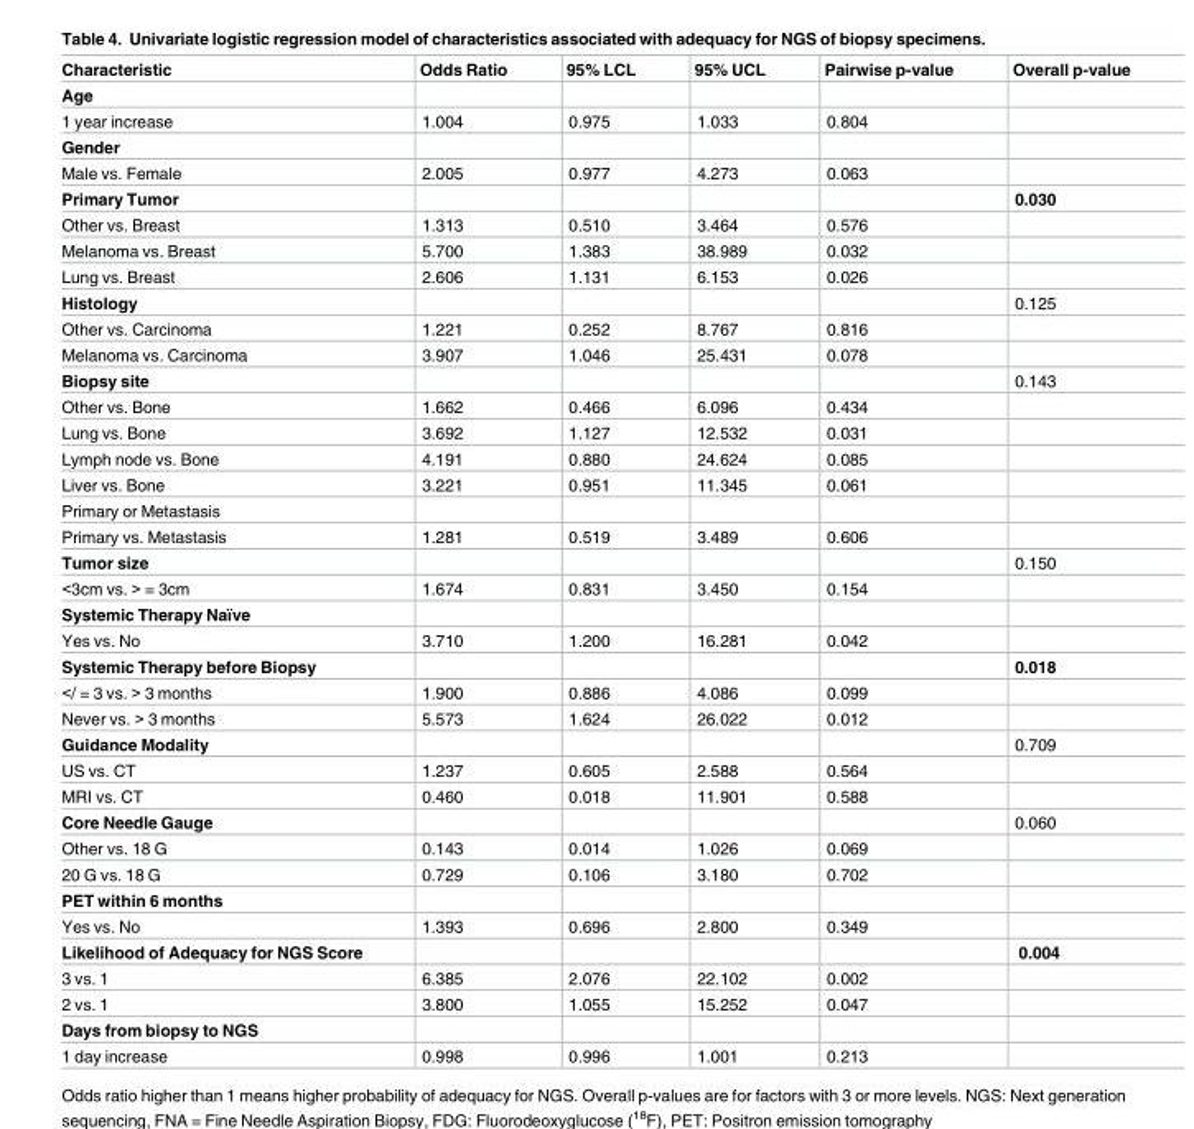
<table><thead><tr><td>Characteristic</td><td>Odds Ratio</td><td>95% LCL</td><td>95% UCL</td><td>Pairwise p-value</td><td>Overall p-value</td></tr></thead><tbody><tr><td colspan="6">Age</td></tr><tr><td>1 year increase</td><td>1.004</td><td>0.975</td><td>1.033</td><td>0.804</td><td></td></tr><tr><td colspan="6">Gender</td></tr><tr><td>Male vs. Female</td><td>2.005</td><td>0.977</td><td>4.273</td><td>0.063</td><td></td></tr><tr><td>Primary Tumor</td><td></td><td></td><td></td><td></td><td>0.030</td></tr><tr><td>Other vs. Breast</td><td>1.313</td><td>0.510</td><td>3.464</td><td>0.576</td><td></td></tr><tr><td>Melanoma vs. Breast</td><td>5.700</td><td>1.383</td><td>38.989</td><td>0.032</td><td></td></tr><tr><td>Lung vs. Breast</td><td>2.606</td><td>1.131</td><td>6.153</td><td>0.026</td><td></td></tr><tr><td>Histology</td><td></td><td></td><td></td><td></td><td>0.125</td></tr><tr><td>Other vs. Carcinoma</td><td>1.221</td><td>0.252</td><td>8.767</td><td>0.816</td><td></td></tr><tr><td>Melanoma vs. Carcinoma</td><td>3.907</td><td>1.046</td><td>25.431</td><td>0.078</td><td></td></tr><tr><td>Biopsy site</td><td></td><td></td><td></td><td></td><td>0.143</td></tr><tr><td>Other vs. Bone</td><td>1.662</td><td>0.466</td><td>6.096</td><td>0.434</td><td></td></tr><tr><td>Lung vs. Bone</td><td>3.692</td><td>1.127</td><td>12.532</td><td>0.031</td><td></td></tr><tr><td>Lymph node vs. Bone</td><td>4.191</td><td>0.880</td><td>24.624</td><td>0.085</td><td></td></tr><tr><td>Liver vs. Bone</td><td>3.221</td><td>0.951</td><td>11.345</td><td>0.061</td><td></td></tr><tr><td colspan="6">Primary or Metastasis</td></tr><tr><td>Primary vs. Metastasis</td><td>1.281</td><td>0.519</td><td>3.489</td><td>0.606</td><td></td></tr><tr><td>Tumor size</td><td></td><td></td><td></td><td></td><td>0.150</td></tr><tr><td>&lt;3cm vs. &gt; = 3cm</td><td>1.674</td><td>0.831</td><td>3.450</td><td>0.154</td><td></td></tr><tr><td colspan="6">Systemic Therapy Naïve</td></tr><tr><td>Yes vs. No</td><td>3.710</td><td>1.200</td><td>16.281</td><td>0.042</td><td></td></tr><tr><td>Systemic Therapy before Biopsy</td><td></td><td></td><td></td><td></td><td>0.018</td></tr><tr><td>&lt;/ = 3 vs. &gt; 3 months</td><td>1.900</td><td>0.886</td><td>4.086</td><td>0.099</td><td></td></tr><tr><td>Never vs. &gt; 3 months</td><td>5.573</td><td>1.624</td><td>26.022</td><td>0.012</td><td></td></tr><tr><td>Guidance Modality</td><td></td><td></td><td></td><td></td><td>0.709</td></tr><tr><td>US vs. CT</td><td>1.237</td><td>0.605</td><td>2.588</td><td>0.564</td><td></td></tr><tr><td>MRI vs. CT</td><td>0.460</td><td>0.018</td><td>11.901</td><td>0.588</td><td></td></tr><tr><td>Core Needle Gauge</td><td></td><td></td><td></td><td></td><td>0.060</td></tr><tr><td>Other vs. 18 G</td><td>0.143</td><td>0.014</td><td>1.026</td><td>0.069</td><td></td></tr><tr><td>20 G vs. 18 G</td><td>0.729</td><td>0.106</td><td>3.180</td><td>0.702</td><td></td></tr><tr><td colspan="6">PET within 6 months</td></tr><tr><td>Yes vs. No</td><td>1.393</td><td>0.696</td><td>2.800</td><td>0.349</td><td></td></tr><tr><td>Likelihood of Adequacy for NGS Score</td><td></td><td></td><td></td><td></td><td>0.004</td></tr><tr><td>3 vs. 1</td><td>6.385</td><td>2.076</td><td>22.102</td><td>0.002</td><td></td></tr><tr><td>2 vs. 1</td><td>3.800</td><td>1.055</td><td>15.252</td><td>0.047</td><td></td></tr><tr><td colspan="6">Days from biopsy to NGS</td></tr><tr><td>1 day increase</td><td>0.998</td><td>0.996</td><td>1.001</td><td>0.213</td><td></td></tr></tbody></table>